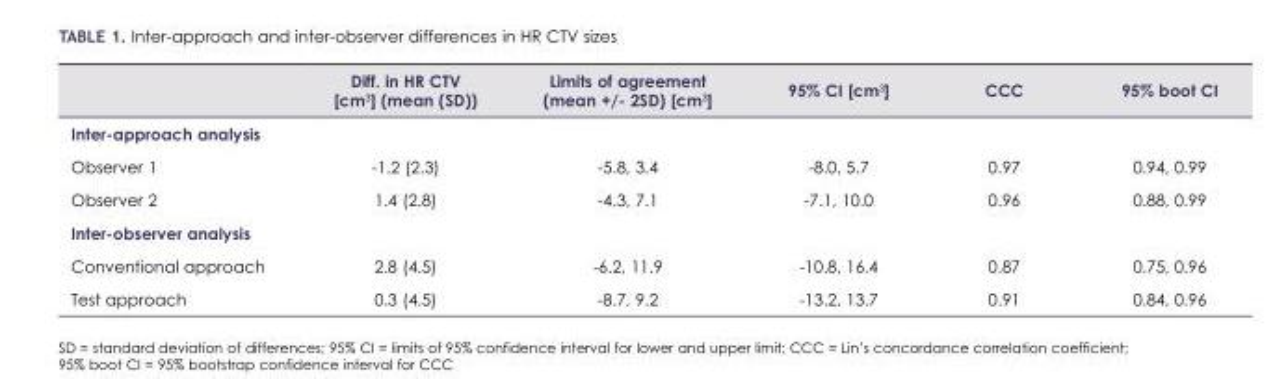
<table><thead><tr><td></td><td>Diff. in HR CTV [cm<sup>3</sup>] (mean (SD))</td><td>Limits of agreement (mean +/- 2SD) [cm<sup>3</sup>]</td><td>95% CI [cm<sup>3</sup>]</td><td>CCC</td><td>95% boot CI</td></tr></thead><tbody><tr><td colspan="6">Inter-approach analysis</td></tr><tr><td>Observer 1</td><td>-1.2 (2.3)</td><td>-5.8, 3.4</td><td>-8.0, 5.7</td><td>0.97</td><td>0.94, 0.99</td></tr><tr><td>Observer 2</td><td>1.4 (2.8)</td><td>-4.3, 7.1</td><td>-7.1, 10.0</td><td>0.96</td><td>0.88, 0.99</td></tr><tr><td colspan="6">Inter-observer analysis</td></tr><tr><td>Conventional approach</td><td>2.8 (4.5)</td><td>-6.2, 11.9</td><td>-10.8, 16.4</td><td>0.87</td><td>0.75, 0.96</td></tr><tr><td>Test approach</td><td>0.3 (4.5)</td><td>-8.7, 9.2</td><td>-13.2, 13.7</td><td>0.91</td><td>0.84, 0.96</td></tr></tbody></table>